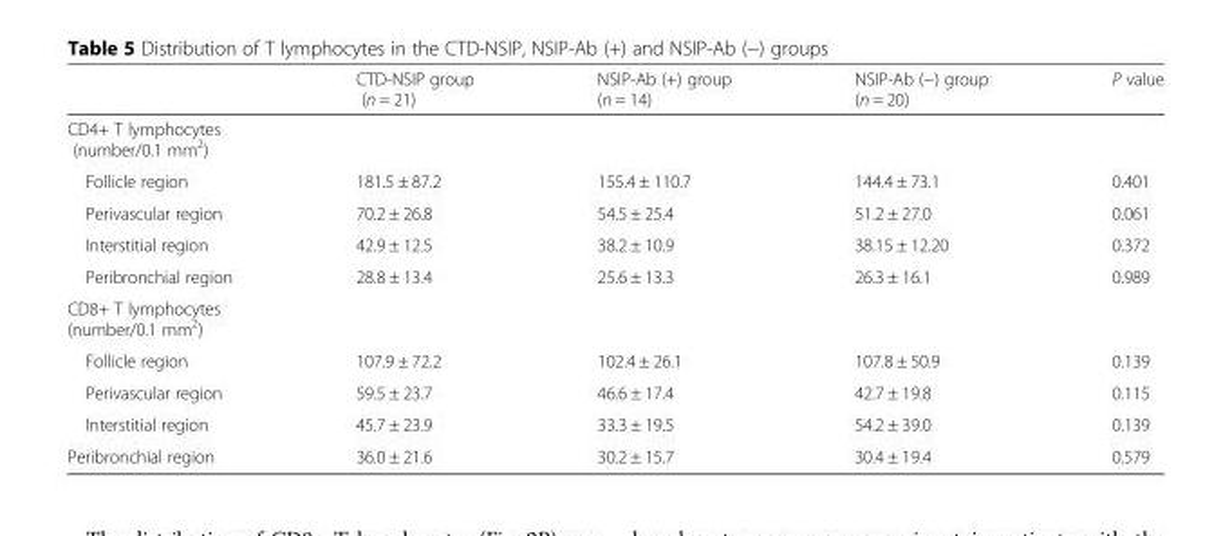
<table><thead><tr><td></td><td>CTD-NSIP group (n = 21)</td><td>NSIP-Ab (+) group (n = 14)</td><td>NSIP-Ab (−) group (n = 20)</td><td>P value</td></tr></thead><tbody><tr><td colspan="5">CD4+ T lymphocytes (number/0.1 mm<sup>2</sup>)</td></tr><tr><td>Follicle region</td><td>181.5 ± 87.2</td><td>155.4 ± 110.7</td><td>144.4 ± 73.1</td><td>0.401</td></tr><tr><td>Perivascular region</td><td>70.2 ± 26.8</td><td>54.5 ± 25.4</td><td>51.2 ± 27.0</td><td>0.061</td></tr><tr><td>Interstitial region</td><td>42.9 ± 12.5</td><td>38.2 ± 10.9</td><td>38.15 ± 12.20</td><td>0.372</td></tr><tr><td>Peribronchial region</td><td>28.8 ± 13.4</td><td>25.6 ± 13.3</td><td>26.3 ± 16.1</td><td>0.989</td></tr><tr><td colspan="5">CD8+ T lymphocytes (number/0.1 mm<sup>2</sup>)</td></tr><tr><td>Follicle region</td><td>107.9 ± 72.2</td><td>102.4 ± 26.1</td><td>107.8 ± 50.9</td><td>0.139</td></tr><tr><td>Perivascular region</td><td>59.5 ± 23.7</td><td>46.6 ± 17.4</td><td>42.7 ± 19.8</td><td>0.115</td></tr><tr><td>Interstitial region</td><td>45.7 ± 23.9</td><td>33.3 ± 19.5</td><td>54.2 ± 39.0</td><td>0.139</td></tr><tr><td>Peribronchial region</td><td>36.0 ± 21.6</td><td>30.2 ± 15.7</td><td>30.4 ± 19.4</td><td>0.579</td></tr></tbody></table>